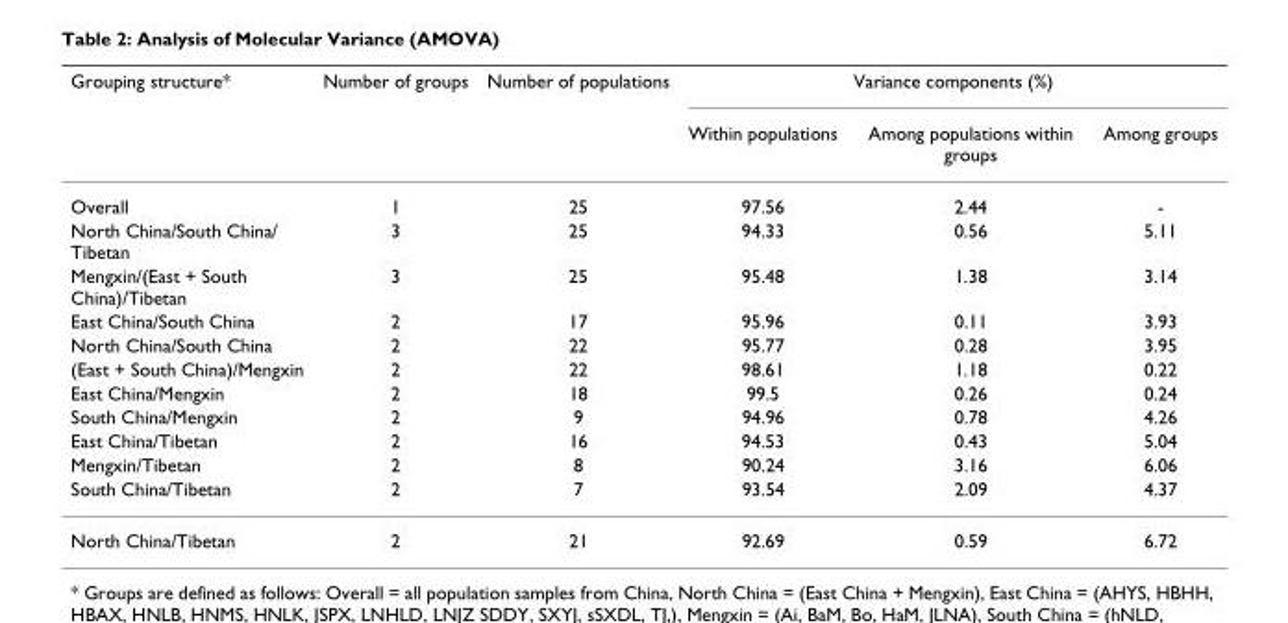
<table><thead><tr><td rowspan="2">Grouping structure*</td><td rowspan="2">Number of groups</td><td rowspan="2">Number of populations</td><td colspan="3">Variance components (%)</td></tr><tr><td>Within populations</td><td>Among populations within groups</td><td>Among groups</td></tr></thead><tbody><tr><td>Overall</td><td>1</td><td>25</td><td>97.56</td><td>2.44</td><td>-</td></tr><tr><td>North China/South China/ Tibetan</td><td>3</td><td>25</td><td>94.33</td><td>0.56</td><td>5.11</td></tr><tr><td>Mengxin/(East + South China)/Tibetan</td><td>3</td><td>25</td><td>95.48</td><td>1.38</td><td>3.14</td></tr><tr><td>East China/South China</td><td>2</td><td>17</td><td>95.96</td><td>0.11</td><td>3.93</td></tr><tr><td>North China/South China</td><td>2</td><td>22</td><td>95.77</td><td>0.28</td><td>3.95</td></tr><tr><td>(East + South China)/Mengxin</td><td>2</td><td>22</td><td>98.61</td><td>1.18</td><td>0.22</td></tr><tr><td>East China/Mengxin</td><td>2</td><td>18</td><td>99.5</td><td>0.26</td><td>0.24</td></tr><tr><td>South China/Mengxin</td><td>2</td><td>9</td><td>94.96</td><td>0.78</td><td>4.26</td></tr><tr><td>East China/Tibetan</td><td>2</td><td>16</td><td>94.53</td><td>0.43</td><td>5.04</td></tr><tr><td>Mengxin/Tibetan</td><td>2</td><td>8</td><td>90.24</td><td>3.16</td><td>6.06</td></tr><tr><td>South China/Tibetan</td><td>2</td><td>7</td><td>93.54</td><td>2.09</td><td>4.37</td></tr><tr><td>North China/Tibetan</td><td>2</td><td>21</td><td>92.69</td><td>0.59</td><td>6.72</td></tr></tbody></table>